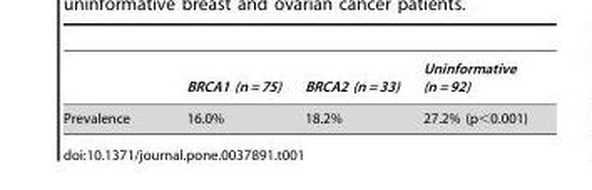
<table><thead><tr><td></td><td>BRCA1 (n = 75)</td><td>BRCA2 (n = 33)</td><td>Uninformative (n = 92)</td></tr></thead><tbody><tr><td>Prevalence</td><td>16.0%</td><td>18.2%</td><td>27.2% (p&lt;0.001)</td></tr></tbody></table>